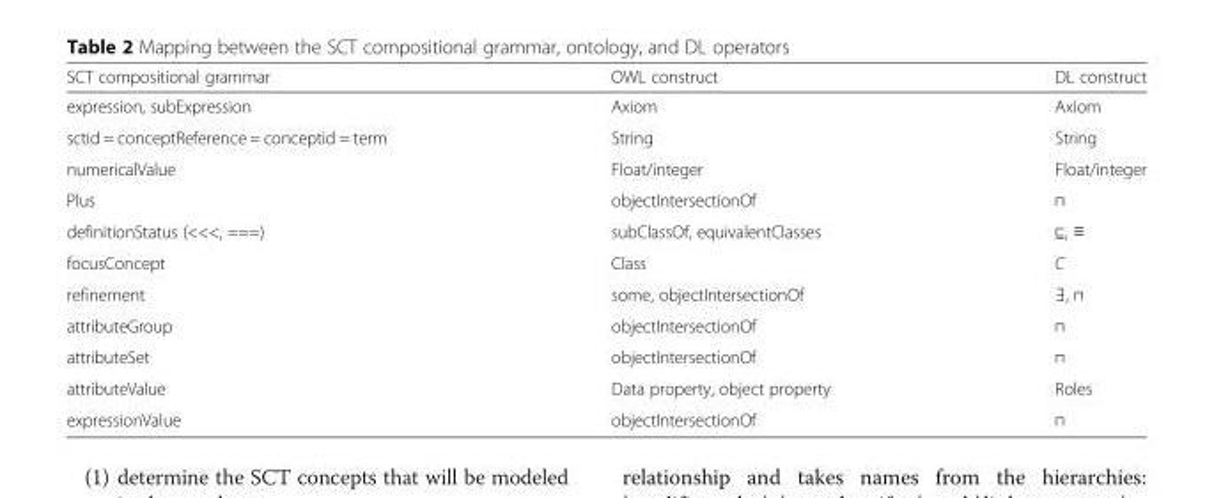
<table><thead><tr><td>SCT compositional grammar</td><td>OWL construct</td><td>DL construct</td></tr></thead><tbody><tr><td>expression, subExpression</td><td>Axiom</td><td>Axiom</td></tr><tr><td>sctid = conceptReference = conceptid = term</td><td>String</td><td>String</td></tr><tr><td>numericalValue</td><td>Float/integer</td><td>Float/integer</td></tr><tr><td>Plus</td><td>objectIntersectionOf</td><td>⊓</td></tr><tr><td>definitionStatus (&lt;&lt;&lt;, ===)</td><td>subClassOf, equivalentClasses</td><td>⊑, ≡</td></tr><tr><td>focusConcept</td><td>Class</td><td>C</td></tr><tr><td>refinement</td><td>some, objectIntersectionOf</td><td>∃, ⊓</td></tr><tr><td>attributeGroup</td><td>objectIntersectionOf</td><td>⊓</td></tr><tr><td>attributeSet</td><td>objectIntersectionOf</td><td>⊓</td></tr><tr><td>attributeValue</td><td>Data property, object property</td><td>Roles</td></tr><tr><td>expressionValue</td><td>objectIntersectionOf</td><td>⊓</td></tr></tbody></table>